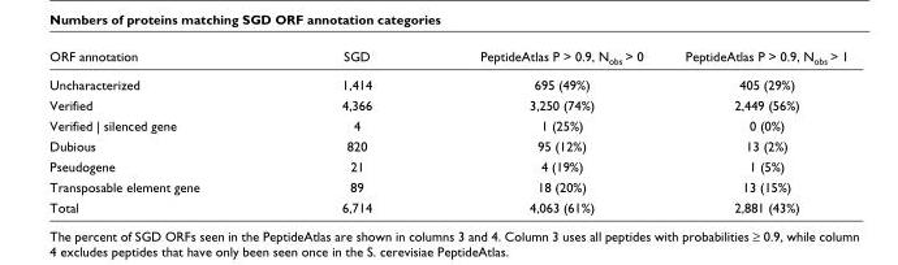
<table><thead><tr><td>ORF annotation</td><td>SGD</td><td>PeptideAtlas P &gt; 0.9, Nobs &gt; 0</td><td>PeptideAtlas P &gt; 0.9, Nobs &gt; 1</td></tr></thead><tbody><tr><td>Uncharacterized</td><td>1,414</td><td>695 (49%)</td><td>405 (29%)</td></tr><tr><td>Verified</td><td>4,366</td><td>3,250 (74%)</td><td>2,449 (56%)</td></tr><tr><td>Verified | silenced gene</td><td>4</td><td>1 (25%)</td><td>0 (0%)</td></tr><tr><td>Dubious</td><td>820</td><td>95 (12%)</td><td>13 (2%)</td></tr><tr><td>Pseudogene</td><td>21</td><td>4 (19%)</td><td>1 (5%)</td></tr><tr><td>Transposable element gene</td><td>89</td><td>18 (20%)</td><td>13 (15%)</td></tr><tr><td>Total</td><td>6,714</td><td>4,063 (61%)</td><td>2,881 (43%)</td></tr></tbody></table>